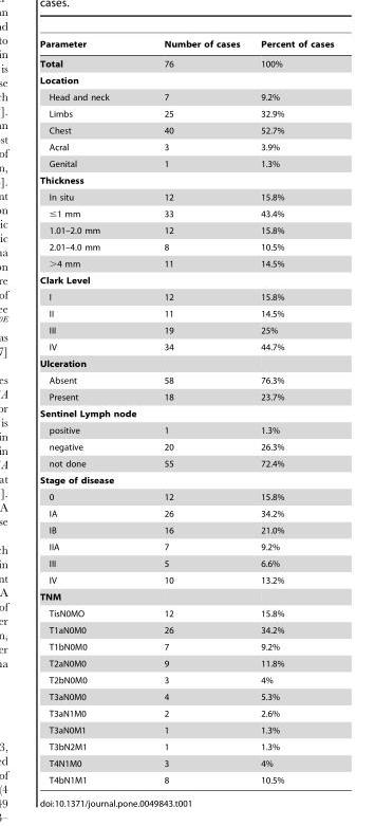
<table><thead><tr><td>Parameter</td><td>Number of cases</td><td>Percent of cases</td></tr></thead><tbody><tr><td>Total</td><td>76</td><td>100%</td></tr><tr><td colspan="3">Location</td></tr><tr><td>Head and neck</td><td>7</td><td>9.2%</td></tr><tr><td>Limbs</td><td>25</td><td>32.9%</td></tr><tr><td>Chest</td><td>40</td><td>52.7%</td></tr><tr><td>Acral</td><td>3</td><td>3.9%</td></tr><tr><td>Genital</td><td>1</td><td>1.3%</td></tr><tr><td colspan="3">Thickness</td></tr><tr><td>In situ</td><td>12</td><td>15.8%</td></tr><tr><td>≤1 mm</td><td>33</td><td>43.4%</td></tr><tr><td>1.01–2.0 mm</td><td>12</td><td>15.8%</td></tr><tr><td>2.01–4.0 mm</td><td>8</td><td>10.5%</td></tr><tr><td>&gt;4 mm</td><td>11</td><td>14.5%</td></tr><tr><td colspan="3">Clark Level</td></tr><tr><td>I</td><td>12</td><td>15.8%</td></tr><tr><td>II</td><td>11</td><td>14.5%</td></tr><tr><td>III</td><td>19</td><td>25%</td></tr><tr><td>IV</td><td>34</td><td>44.7%</td></tr><tr><td colspan="3">Ulceration</td></tr><tr><td>Absent</td><td>58</td><td>76.3%</td></tr><tr><td>Present</td><td>18</td><td>23.7%</td></tr><tr><td colspan="3">Sentinel Lymph node</td></tr><tr><td>positive</td><td>1</td><td>1.3%</td></tr><tr><td>negative</td><td>20</td><td>26.3%</td></tr><tr><td>not done</td><td>55</td><td>72.4%</td></tr><tr><td colspan="3">Stage of disease</td></tr><tr><td>0</td><td>12</td><td>15.8%</td></tr><tr><td>IA</td><td>26</td><td>34.2%</td></tr><tr><td>IB</td><td>16</td><td>21.0%</td></tr><tr><td>IIA</td><td>7</td><td>9.2%</td></tr><tr><td>III</td><td>5</td><td>6.6%</td></tr><tr><td>IV</td><td>10</td><td>13.2%</td></tr><tr><td colspan="3">TNM</td></tr><tr><td>TisN0MO</td><td>12</td><td>15.8%</td></tr><tr><td>T1aN0M0</td><td>26</td><td>34.2%</td></tr><tr><td>T1bN0M0</td><td>7</td><td>9.2%</td></tr><tr><td>T2aN0M0</td><td>9</td><td>11.8%</td></tr><tr><td>T2bN0M0</td><td>3</td><td>4%</td></tr><tr><td>T3aN0M0</td><td>4</td><td>5.3%</td></tr><tr><td>T3aN1M0</td><td>2</td><td>2.6%</td></tr><tr><td>T3aN0M1</td><td>1</td><td>1.3%</td></tr><tr><td>T3bN2M1</td><td>1</td><td>1.3%</td></tr><tr><td>T4N1M0</td><td>3</td><td>4%</td></tr><tr><td>T4bN1M1</td><td>8</td><td>10.5%</td></tr></tbody></table>